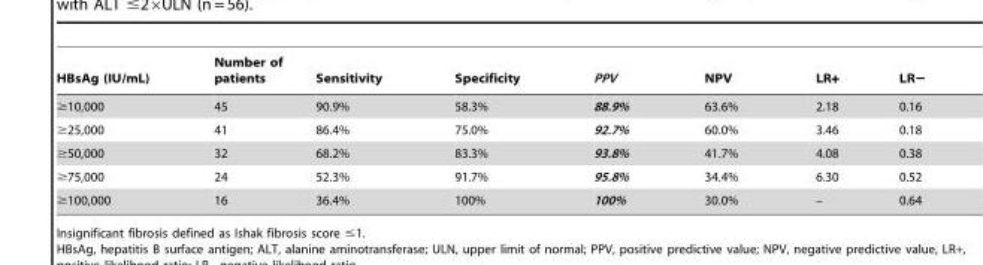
<table><thead><tr><td>HBsAg (IU/mL)</td><td>Number of patients</td><td>Sensitivity</td><td>Specificity</td><td>PPV</td><td>NPV</td><td>LR+</td><td>LR−</td></tr></thead><tbody><tr><td>≥10,000</td><td>45</td><td>90.9%</td><td>58.3%</td><td>88.9%</td><td>63.6%</td><td>2.18</td><td>0.16</td></tr><tr><td>≥25,000</td><td>41</td><td>86.4%</td><td>75.0%</td><td>92.7%</td><td>60.0%</td><td>3.46</td><td>0.18</td></tr><tr><td>≥50,000</td><td>32</td><td>68.2%</td><td>83.3%</td><td>93.8%</td><td>41.7%</td><td>4.08</td><td>0.38</td></tr><tr><td>≥75,000</td><td>24</td><td>52.3%</td><td>91.7%</td><td>95.8%</td><td>34.4%</td><td>6.30</td><td>0.52</td></tr><tr><td>≥100,000</td><td>16</td><td>36.4%</td><td>100%</td><td>100%</td><td>30.0%</td><td>–</td><td>0.64</td></tr></tbody></table>